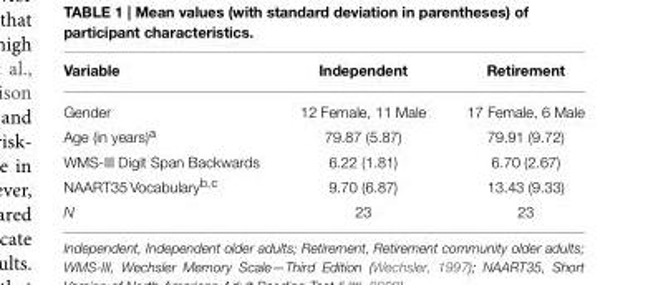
<table><thead><tr><td>Variable</td><td>Independent</td><td>Retirement</td></tr></thead><tbody><tr><td>Gender</td><td>12 Female, 11 Male</td><td>17 Female, 6 Male</td></tr><tr><td>Age (in years)<sup>a</sup></td><td>79.87 (5.87)</td><td>79.91 (9.72)</td></tr><tr><td>WMS-III Digit Span Backwards</td><td>6.22 (1.81)</td><td>6.70 (2.67)</td></tr><tr><td>NAART35 Vocabulary<sup>b,c</sup></td><td>9.70 (6.87)</td><td>13.43 (9.33)</td></tr><tr><td>N</td><td>23</td><td>23</td></tr></tbody></table>